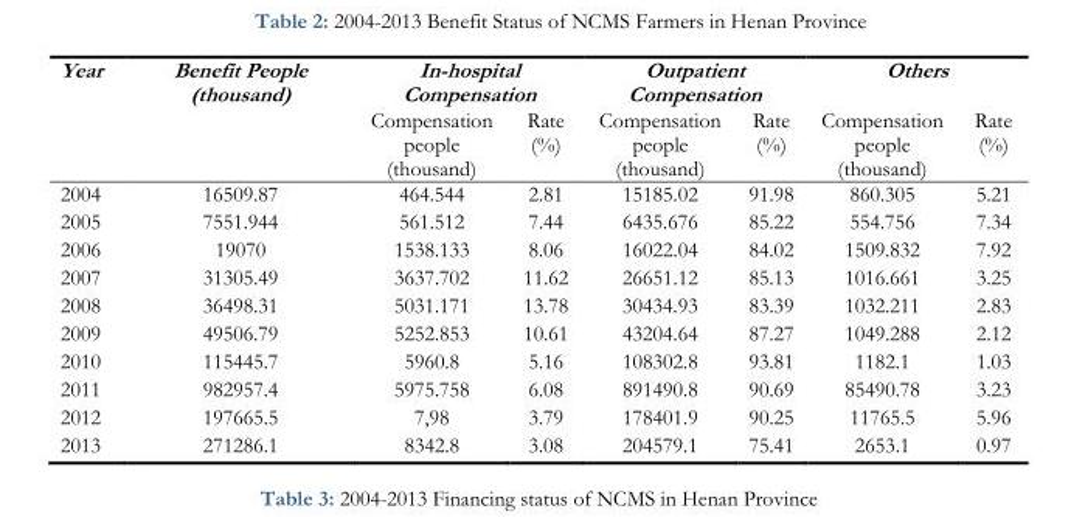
<table><thead><tr><td rowspan="2">Year</td><td rowspan="2">Benefit People (thousand)</td><td colspan="2">In-hospital Compensation</td><td colspan="2">Outpatient Compensation</td><td colspan="2">Others</td></tr><tr><td>Compensation people (thousand)</td><td>Rate (%)</td><td>Compensation people (thousand)</td><td>Rate (%)</td><td>Compensation people (thousand)</td><td>Rate (%)</td></tr></thead><tbody><tr><td>2004</td><td>16509.87</td><td>464.544</td><td>2.81</td><td>15185.02</td><td>91.98</td><td>860.305</td><td>5.21</td></tr><tr><td>2005</td><td>7551.944</td><td>561.512</td><td>7.44</td><td>6435.676</td><td>85.22</td><td>554.756</td><td>7.34</td></tr><tr><td>2006</td><td>19070</td><td>1538.133</td><td>8.06</td><td>16022.04</td><td>84.02</td><td>1509.832</td><td>7.92</td></tr><tr><td>2007</td><td>31305.49</td><td>3637.702</td><td>11.62</td><td>26651.12</td><td>85.13</td><td>1016.661</td><td>3.25</td></tr><tr><td>2008</td><td>36498.31</td><td>5031.171</td><td>13.78</td><td>30434.93</td><td>83.39</td><td>1032.211</td><td>2.83</td></tr><tr><td>2009</td><td>49506.79</td><td>5252.853</td><td>10.61</td><td>43204.64</td><td>87.27</td><td>1049.288</td><td>2.12</td></tr><tr><td>2010</td><td>115445.7</td><td>5960.8</td><td>5.16</td><td>108302.8</td><td>93.81</td><td>1182.1</td><td>1.03</td></tr><tr><td>2011</td><td>982957.4</td><td>5975.758</td><td>6.08</td><td>891490.8</td><td>90.69</td><td>85490.78</td><td>3.23</td></tr><tr><td>2012</td><td>197665.5</td><td>7,98</td><td>3.79</td><td>178401.9</td><td>90.25</td><td>11765.5</td><td>5.96</td></tr><tr><td>2013</td><td>271286.1</td><td>8342.8</td><td>3.08</td><td>204579.1</td><td>75.41</td><td>2653.1</td><td>0.97</td></tr></tbody></table>